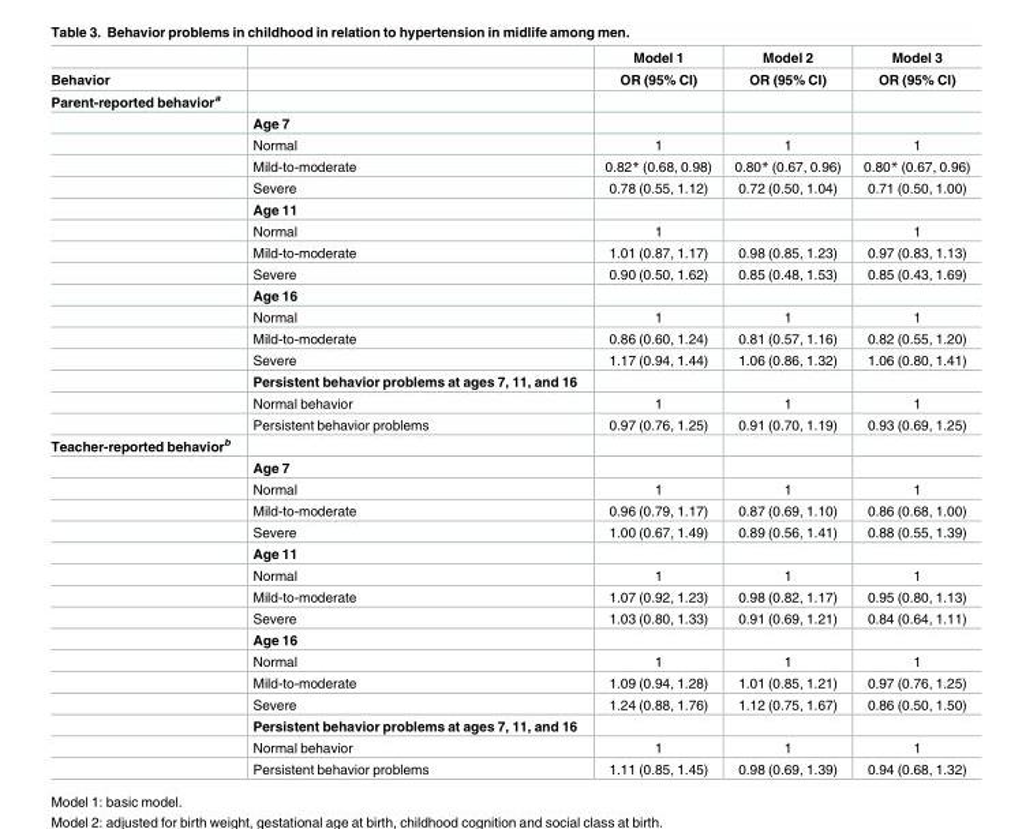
<table><thead><tr><td rowspan="2">Behavior</td><td rowspan="2"></td><td rowspan="2">Model 1 OR (95% CI)</td><td rowspan="2">Model 2 OR (95% CI)</td><td rowspan="2">Model 3 OR (95% CI)</td></tr><tr></tr></thead><tbody><tr><td colspan="5">Parent-reported behavior<sup>a</sup></td></tr><tr><td></td><td>Age 7</td><td></td><td></td><td></td></tr><tr><td></td><td>Normal</td><td>1</td><td>1</td><td>1</td></tr><tr><td></td><td>Mild-to-moderate</td><td>0.82* (0.68, 0.98)</td><td>0.80* (0.67, 0.96)</td><td>0.80* (0.67, 0.96)</td></tr><tr><td></td><td>Severe</td><td>0.78 (0.55, 1.12)</td><td>0.72 (0.50, 1.04)</td><td>0.71 (0.50, 1.00)</td></tr><tr><td></td><td>Age 11</td><td></td><td></td><td></td></tr><tr><td></td><td>Normal</td><td>1</td><td></td><td>1</td></tr><tr><td></td><td>Mild-to-moderate</td><td>1.01 (0.87, 1.17)</td><td>0.98 (0.85, 1.23)</td><td>0.97 (0.83, 1.13)</td></tr><tr><td></td><td>Severe</td><td>0.90 (0.50, 1.62)</td><td>0.85 (0.48, 1.53)</td><td>0.85 (0.43, 1.69)</td></tr><tr><td></td><td>Age 16</td><td></td><td></td><td></td></tr><tr><td></td><td>Normal</td><td>1</td><td>1</td><td>1</td></tr><tr><td></td><td>Mild-to-moderate</td><td>0.86 (0.60, 1.24)</td><td>0.81 (0.57, 1.16)</td><td>0.82 (0.55, 1.20)</td></tr><tr><td></td><td>Severe</td><td>1.17 (0.94, 1.44)</td><td>1.06 (0.86, 1.32)</td><td>1.06 (0.80, 1.41)</td></tr><tr><td></td><td>Persistent behavior problems at ages 7, 11, and 16</td><td></td><td></td><td></td></tr><tr><td></td><td>Normal behavior</td><td>1</td><td>1</td><td>1</td></tr><tr><td></td><td>Persistent behavior problems</td><td>0.97 (0.76, 1.25)</td><td>0.91 (0.70, 1.19)</td><td>0.93 (0.69, 1.25)</td></tr><tr><td colspan="5">Teacher-reported behavior<sup>b</sup></td></tr><tr><td></td><td>Age 7</td><td></td><td></td><td></td></tr><tr><td></td><td>Normal</td><td>1</td><td>1</td><td>1</td></tr><tr><td></td><td>Mild-to-moderate</td><td>0.96 (0.79, 1.17)</td><td>0.87 (0.69, 1.10)</td><td>0.86 (0.68, 1.00)</td></tr><tr><td></td><td>Severe</td><td>1.00 (0.67, 1.49)</td><td>0.89 (0.56, 1.41)</td><td>0.88 (0.55, 1.39)</td></tr><tr><td></td><td>Age 11</td><td></td><td></td><td></td></tr><tr><td></td><td>Normal</td><td>1</td><td>1</td><td>1</td></tr><tr><td></td><td>Mild-to-moderate</td><td>1.07 (0.92, 1.23)</td><td>0.98 (0.82, 1.17)</td><td>0.95 (0.80, 1.13)</td></tr><tr><td></td><td>Severe</td><td>1.03 (0.80, 1.33)</td><td>0.91 (0.69, 1.21)</td><td>0.84 (0.64, 1.11)</td></tr><tr><td></td><td>Age 16</td><td></td><td></td><td></td></tr><tr><td></td><td>Normal</td><td>1</td><td>1</td><td>1</td></tr><tr><td></td><td>Mild-to-moderate</td><td>1.09 (0.94, 1.28)</td><td>1.01 (0.85, 1.21)</td><td>0.97 (0.76, 1.25)</td></tr><tr><td></td><td>Severe</td><td>1.24 (0.88, 1.76)</td><td>1.12 (0.75, 1.67)</td><td>0.86 (0.50, 1.50)</td></tr><tr><td></td><td>Persistent behavior problems at ages 7, 11, and 16</td><td></td><td></td><td></td></tr><tr><td></td><td>Normal behavior</td><td>1</td><td>1</td><td>1</td></tr><tr><td></td><td>Persistent behavior problems</td><td>1.11 (0.85, 1.45)</td><td>0.98 (0.69, 1.39)</td><td>0.94 (0.68, 1.32)</td></tr></tbody></table>